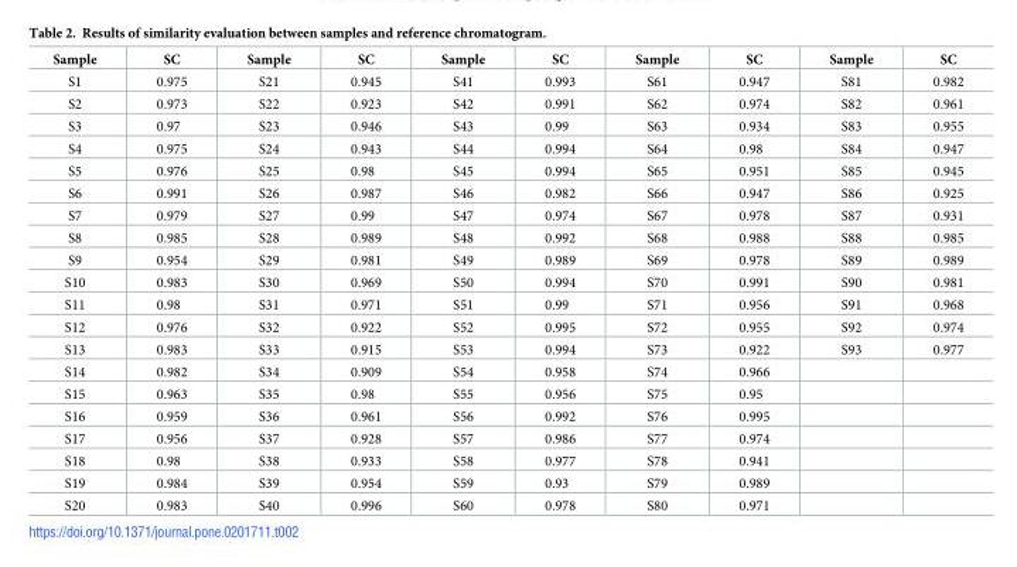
<table><thead><tr><td>Sample</td><td>SC</td><td>Sample</td><td>SC</td><td>Sample</td><td>SC</td><td>Sample</td><td>SC</td><td>Sample</td><td>SC</td></tr></thead><tbody><tr><td>S1</td><td>0.975</td><td>S21</td><td>0.945</td><td>S41</td><td>0.993</td><td>S61</td><td>0.947</td><td>S81</td><td>0.982</td></tr><tr><td>S2</td><td>0.973</td><td>S22</td><td>0.923</td><td>S42</td><td>0.991</td><td>S62</td><td>0.974</td><td>S82</td><td>0.961</td></tr><tr><td>S3</td><td>0.97</td><td>S23</td><td>0.946</td><td>S43</td><td>0.99</td><td>S63</td><td>0.934</td><td>S83</td><td>0.955</td></tr><tr><td>S4</td><td>0.975</td><td>S24</td><td>0.943</td><td>S44</td><td>0.994</td><td>S64</td><td>0.98</td><td>S84</td><td>0.947</td></tr><tr><td>S5</td><td>0.976</td><td>S25</td><td>0.98</td><td>S45</td><td>0.994</td><td>S65</td><td>0.951</td><td>S85</td><td>0.945</td></tr><tr><td>S6</td><td>0.991</td><td>S26</td><td>0.987</td><td>S46</td><td>0.982</td><td>S66</td><td>0.947</td><td>S86</td><td>0.925</td></tr><tr><td>S7</td><td>0.979</td><td>S27</td><td>0.99</td><td>S47</td><td>0.974</td><td>S67</td><td>0.978</td><td>S87</td><td>0.931</td></tr><tr><td>S8</td><td>0.985</td><td>S28</td><td>0.989</td><td>S48</td><td>0.992</td><td>S68</td><td>0.988</td><td>S88</td><td>0.985</td></tr><tr><td>S9</td><td>0.954</td><td>S29</td><td>0.981</td><td>S49</td><td>0.989</td><td>S69</td><td>0.978</td><td>S89</td><td>0.989</td></tr><tr><td>S10</td><td>0.983</td><td>S30</td><td>0.969</td><td>S50</td><td>0.994</td><td>S70</td><td>0.991</td><td>S90</td><td>0.981</td></tr><tr><td>S11</td><td>0.98</td><td>S31</td><td>0.971</td><td>S51</td><td>0.99</td><td>S71</td><td>0.956</td><td>S91</td><td>0.968</td></tr><tr><td>S12</td><td>0.976</td><td>S32</td><td>0.922</td><td>S52</td><td>0.995</td><td>S72</td><td>0.955</td><td>S92</td><td>0.974</td></tr><tr><td>S13</td><td>0.983</td><td>S33</td><td>0.915</td><td>S53</td><td>0.994</td><td>S73</td><td>0.922</td><td>S93</td><td>0.977</td></tr><tr><td>S14</td><td>0.982</td><td>S34</td><td>0.909</td><td>S54</td><td>0.958</td><td>S74</td><td>0.966</td><td></td><td></td></tr><tr><td>S15</td><td>0.963</td><td>S35</td><td>0.98</td><td>S55</td><td>0.956</td><td>S75</td><td>0.95</td><td></td><td></td></tr><tr><td>S16</td><td>0.959</td><td>S36</td><td>0.961</td><td>S56</td><td>0.992</td><td>S76</td><td>0.995</td><td></td><td></td></tr><tr><td>S17</td><td>0.956</td><td>S37</td><td>0.928</td><td>S57</td><td>0.986</td><td>S77</td><td>0.974</td><td></td><td></td></tr><tr><td>S18</td><td>0.98</td><td>S38</td><td>0.933</td><td>S58</td><td>0.977</td><td>S78</td><td>0.941</td><td></td><td></td></tr><tr><td>S19</td><td>0.984</td><td>S39</td><td>0.954</td><td>S59</td><td>0.93</td><td>S79</td><td>0.989</td><td></td><td></td></tr><tr><td>S20</td><td>0.983</td><td>S40</td><td>0.996</td><td>S60</td><td>0.978</td><td>S80</td><td>0.971</td><td></td><td></td></tr></tbody></table>